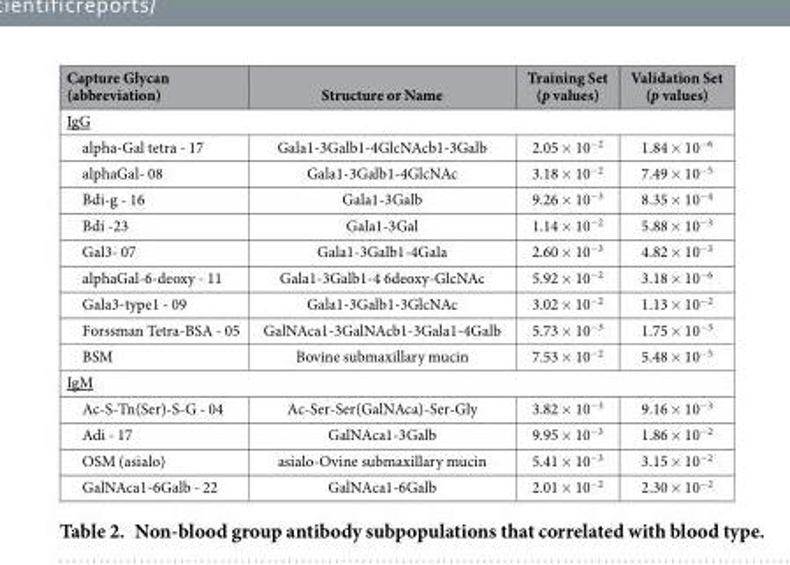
<table><thead><tr><td>Capture Glycan (abbreviation)</td><td>Structure or Name</td><td>Training Set (p values)</td><td>Validation Set (p values)</td></tr></thead><tbody><tr><td colspan="4">IgG</td></tr><tr><td>alpha-Gal tetra - 17</td><td>Gala1-3Galb1-4GlcNAcb1-3Galb</td><td>2.05 × 10<sup>−2</sup></td><td>1.84 × 10<sup>−6</sup></td></tr><tr><td>alphaGal- 08</td><td>Gala1-3Galb1-4GlcNAc</td><td>3.18 × 10<sup>−2</sup></td><td>7.49 × 10<sup>−5</sup></td></tr><tr><td>Bdi-g - 16</td><td>Gala1-3Galb</td><td>9.26 × 10<sup>−3</sup></td><td>8.35 × 10<sup>−4</sup></td></tr><tr><td>Bdi -23</td><td>Gala1-3Gal</td><td>1.14 × 10<sup>−2</sup></td><td>5.88 × 10<sup>−3</sup></td></tr><tr><td>Gal3- 07</td><td>Gala1-3Galb1-4Gala</td><td>2.60 × 10<sup>−3</sup></td><td>4.82 × 10<sup>−3</sup></td></tr><tr><td>alphaGal-6-deoxy - 11</td><td>Gala1-3Galb1-4 6deoxy-GlcNAc</td><td>5.92 × 10<sup>−2</sup></td><td>3.18 × 10<sup>−6</sup></td></tr><tr><td>Gala3-type1 - 09</td><td>Gala1-3Galb1-3GlcNAc</td><td>3.02 × 10<sup>−2</sup></td><td>1.13 × 10<sup>−2</sup></td></tr><tr><td>Forssman Tetra-BSA - 05</td><td>GalNAca1-3GalNAcb1-3Gala1-4Galb</td><td>5.73 × 10<sup>−3</sup></td><td>1.75 × 10<sup>−3</sup></td></tr><tr><td>BSM</td><td>Bovine submaxillary mucin</td><td>7.53 × 10<sup>−2</sup></td><td>5.48 × 10<sup>−5</sup></td></tr><tr><td colspan="4">IgM</td></tr><tr><td>Ac-S-Tn(Ser)-S-G - 04</td><td>Ac-Ser-Ser(GalNAca)-Ser-Gly</td><td>3.82 × 10<sup>−3</sup></td><td>9.16 × 10<sup>−3</sup></td></tr><tr><td>Adi - 17</td><td>GalNAca1-3Galb</td><td>9.95 × 10<sup>−3</sup></td><td>1.86 × 10<sup>−2</sup></td></tr><tr><td>OSM (asialo)</td><td>asialo-Ovine submaxillary mucin</td><td>5.41 × 10<sup>−3</sup></td><td>3.15 × 10<sup>−2</sup></td></tr><tr><td>GalNAca1-6Galb - 22</td><td>GalNAca1-6Galb</td><td>2.01 × 10<sup>−2</sup></td><td>2.30 × 10<sup>−2</sup></td></tr></tbody></table>